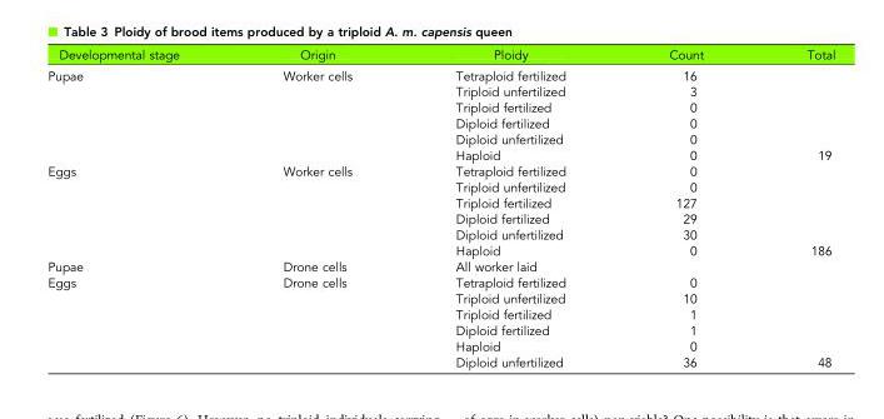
<table><thead><tr><td>Developmental stage</td><td>Origin</td><td>Ploidy</td><td>Count</td><td>Total</td></tr></thead><tbody><tr><td rowspan="6">Pupae</td><td>Worker cells</td><td>Tetraploid fertilized</td><td>16</td><td></td></tr><tr><td></td><td>Triploid unfertilized</td><td>3</td><td></td></tr><tr><td></td><td>Triploid fertilized</td><td>0</td><td></td></tr><tr><td></td><td>Diploid fertilized</td><td>0</td><td></td></tr><tr><td></td><td>Diploid unfertilized</td><td>0</td><td></td></tr><tr><td></td><td>Haploid</td><td>0</td><td>19</td></tr><tr><td rowspan="6">Eggs</td><td>Worker cells</td><td>Tetraploid fertilized</td><td>0</td><td></td></tr><tr><td></td><td>Triploid unfertilized</td><td>0</td><td></td></tr><tr><td></td><td>Triploid fertilized</td><td>127</td><td></td></tr><tr><td></td><td>Diploid fertilized</td><td>29</td><td></td></tr><tr><td></td><td>Diploid unfertilized</td><td>30</td><td></td></tr><tr><td></td><td>Haploid</td><td>0</td><td>186</td></tr><tr><td>Pupae</td><td>Drone cells</td><td>All worker laid</td><td></td><td></td></tr><tr><td rowspan="6">Eggs</td><td>Drone cells</td><td>Tetraploid fertilized</td><td>0</td><td></td></tr><tr><td></td><td>Triploid unfertilized</td><td>10</td><td></td></tr><tr><td></td><td>Triploid fertilized</td><td>1</td><td></td></tr><tr><td></td><td>Diploid fertilized</td><td>1</td><td></td></tr><tr><td></td><td>Haploid</td><td>0</td><td></td></tr><tr><td></td><td>Diploid unfertilized</td><td>36</td><td>48</td></tr></tbody></table>